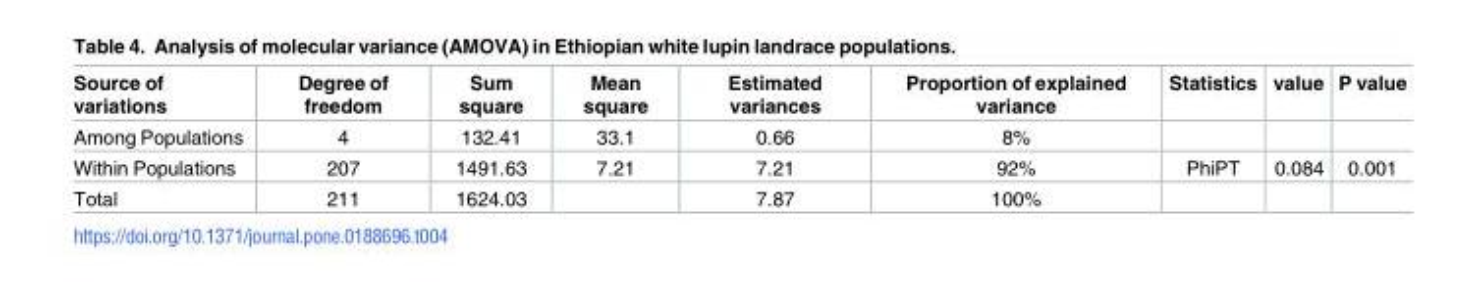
<table><thead><tr><td>Source of variations</td><td>Degree of freedom</td><td>Sum square</td><td>Mean square</td><td>Estimated variances</td><td>Proportion of explained variance</td><td>Statistics</td><td>value</td><td>P value</td></tr></thead><tbody><tr><td>Among Populations</td><td>4</td><td>132.41</td><td>33.1</td><td>0.66</td><td>8%</td><td></td><td></td><td></td></tr><tr><td>Within Populations</td><td>207</td><td>1491.63</td><td>7.21</td><td>7.21</td><td>92%</td><td>PhiPT</td><td>0.084</td><td>0.001</td></tr><tr><td>Total</td><td>211</td><td>1624.03</td><td></td><td>7.87</td><td>100%</td><td></td><td></td><td></td></tr></tbody></table>